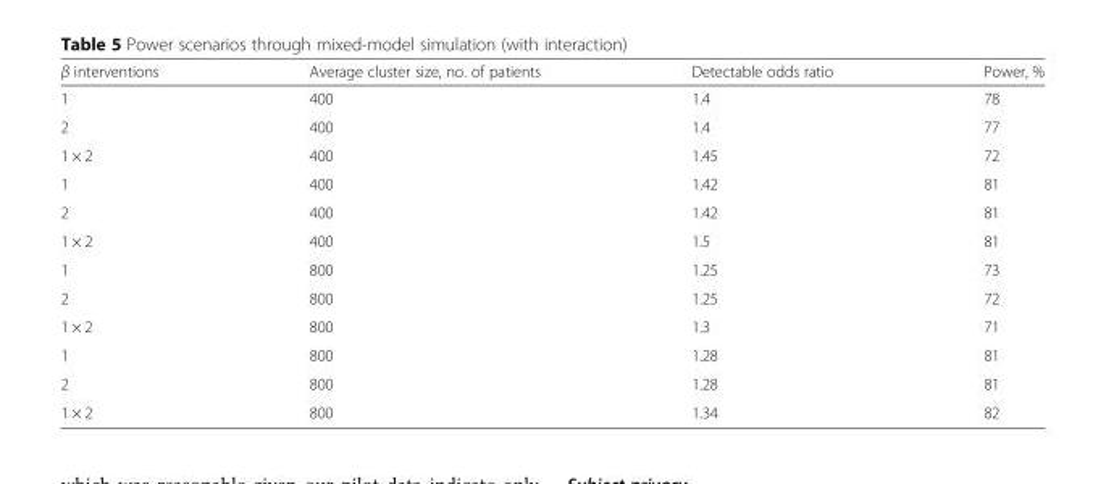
<table><thead><tr><td>β interventions</td><td>Average cluster size, no. of patients</td><td>Detectable odds ratio</td><td>Power, %</td></tr></thead><tbody><tr><td>1</td><td>400</td><td>1.4</td><td>78</td></tr><tr><td>2</td><td>400</td><td>1.4</td><td>77</td></tr><tr><td>1 × 2</td><td>400</td><td>1.45</td><td>72</td></tr><tr><td>1</td><td>400</td><td>1.42</td><td>81</td></tr><tr><td>2</td><td>400</td><td>1.42</td><td>81</td></tr><tr><td>1 × 2</td><td>400</td><td>1.5</td><td>81</td></tr><tr><td>1</td><td>800</td><td>1.25</td><td>73</td></tr><tr><td>2</td><td>800</td><td>1.25</td><td>72</td></tr><tr><td>1 × 2</td><td>800</td><td>1.3</td><td>71</td></tr><tr><td>1</td><td>800</td><td>1.28</td><td>81</td></tr><tr><td>2</td><td>800</td><td>1.28</td><td>81</td></tr><tr><td>1 × 2</td><td>800</td><td>1.34</td><td>82</td></tr></tbody></table>